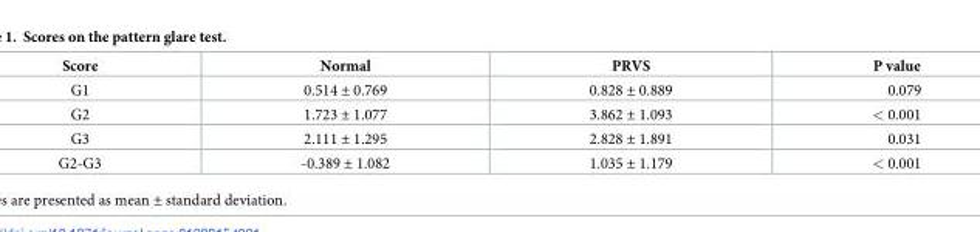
<table><thead><tr><td>Score</td><td>Normal</td><td>PRVS</td><td>P value</td></tr></thead><tbody><tr><td>G1</td><td>0.514 ± 0.769</td><td>0.828 ± 0.889</td><td>0.079</td></tr><tr><td>G2</td><td>1.723 ± 1.077</td><td>3.862 ± 1.093</td><td>&lt; 0.001</td></tr><tr><td>G3</td><td>2.111 ± 1.295</td><td>2.828 ± 1.891</td><td>0.031</td></tr><tr><td>G2-G3</td><td>-0.389 ± 1.082</td><td>1.035 ± 1.179</td><td>&lt; 0.001</td></tr></tbody></table>